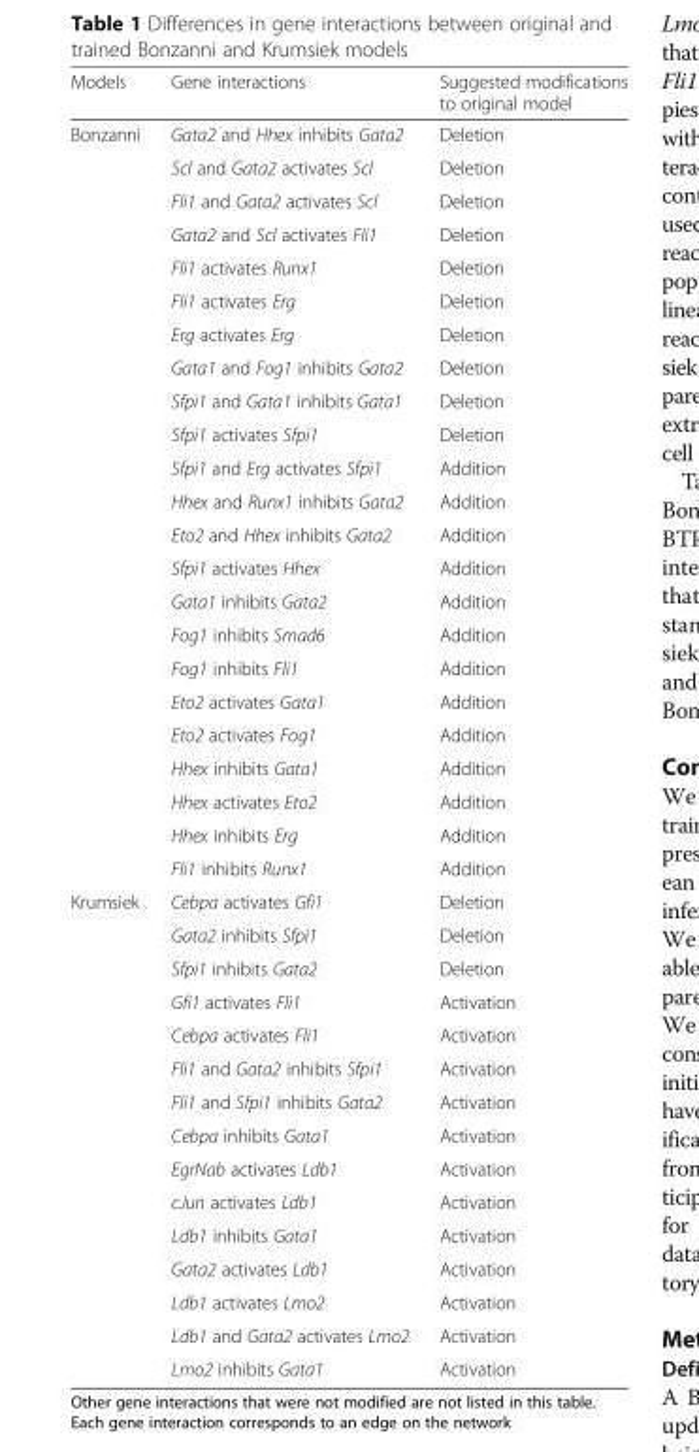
<table><thead><tr><td>Models</td><td>Gene interactions</td><td>Suggested modifications to original model</td></tr></thead><tbody><tr><td rowspan="23">Bonzanni</td><td>Gata2 and Hhex inhibits Gata2</td><td>Deletion</td></tr><tr><td>Scl and Gata2 activates Scl</td><td>Deletion</td></tr><tr><td>Fli1 and Gata2 activates Scl</td><td>Deletion</td></tr><tr><td>Gata2 and Scl activates Fli1</td><td>Deletion</td></tr><tr><td>Fli1 activates Runx1</td><td>Deletion</td></tr><tr><td>Fli1 activates Erg</td><td>Deletion</td></tr><tr><td>Erg activates Erg</td><td>Deletion</td></tr><tr><td>Gata1 and Fog1 inhibits Gata2</td><td>Deletion</td></tr><tr><td>Sfpi1 and Gata1 inhibits Gata1</td><td>Deletion</td></tr><tr><td>Sfpi1 activates Sfpi1</td><td>Deletion</td></tr><tr><td>Sfpi1 and Erg activates Sfpi1</td><td>Addition</td></tr><tr><td>Hhex and Runx1 inhibits Gata2</td><td>Addition</td></tr><tr><td>Eto2 and Hhex inhibits Gata2</td><td>Addition</td></tr><tr><td>Sfpi1 activates Hhex</td><td>Addition</td></tr><tr><td>Gata1 inhibits Gata2</td><td>Addition</td></tr><tr><td>Fog1 inhibits Smad6</td><td>Addition</td></tr><tr><td>Fog1 inhibits Fli1</td><td>Addition</td></tr><tr><td>Eto2 activates Gata1</td><td>Addition</td></tr><tr><td>Eto2 activates Fog1</td><td>Addition</td></tr><tr><td>Hhex inhibits Gata1</td><td>Addition</td></tr><tr><td>Hhex activates Eto2</td><td>Addition</td></tr><tr><td>Hhex inhibits Erg</td><td>Addition</td></tr><tr><td>Fli1 inhibits Runx1</td><td>Addition</td></tr><tr><td rowspan="15">Krumsiek</td><td>Cebpa activates Gfi1</td><td>Deletion</td></tr><tr><td>Gata2 inhibits Sfpi1</td><td>Deletion</td></tr><tr><td>Sfpi1 inhibits Gata2</td><td>Deletion</td></tr><tr><td>Gfi1 activates Fli1</td><td>Activation</td></tr><tr><td>Cebpa activates Fli1</td><td>Activation</td></tr><tr><td>Fli1 and Gata2 inhibits Sfpi1</td><td>Activation</td></tr><tr><td>Fli1 and Sfpi1 inhibits Gata2</td><td>Activation</td></tr><tr><td>Cebpa inhibits Gata1</td><td>Activation</td></tr><tr><td>EgrNab activates Ldb1</td><td>Activation</td></tr><tr><td>cJun activates Ldb1</td><td>Activation</td></tr><tr><td>Ldb1 inhibits Gata1</td><td>Activation</td></tr><tr><td>Gata2 activates Ldb1</td><td>Activation</td></tr><tr><td>Ldb1 activates Lmo2</td><td>Activation</td></tr><tr><td>Ldb1 and Gata2 activates Lmo2</td><td>Activation</td></tr><tr><td>Lmo2 inhibits Gata1</td><td>Activation</td></tr></tbody></table>